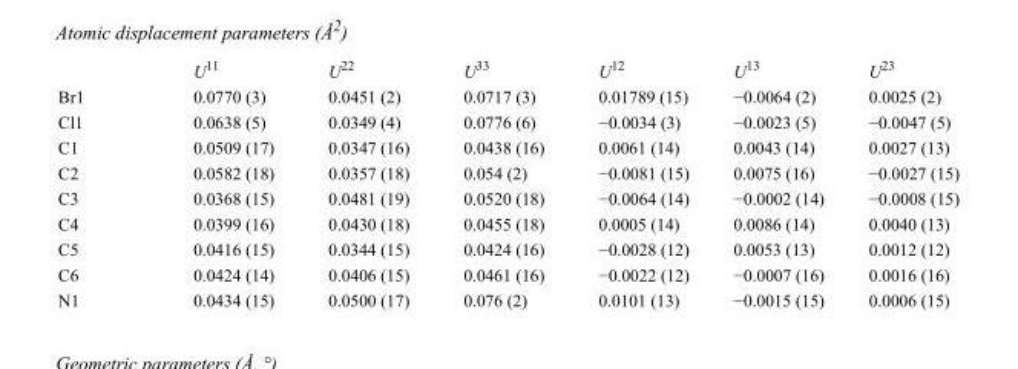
<table><thead><tr><td></td><td>U<sup>11</sup></td><td>U<sup>22</sup></td><td>U<sup>33</sup></td><td>U<sup>12</sup></td><td>U<sup>13</sup></td><td>U<sup>23</sup></td></tr></thead><tbody><tr><td>Br1</td><td>0.0770 (3)</td><td>0.0451 (2)</td><td>0.0717 (3)</td><td>0.01789 (15)</td><td>−0.0064 (2)</td><td>0.0025 (2)</td></tr><tr><td>Cl1</td><td>0.0638 (5)</td><td>0.0349 (4)</td><td>0.0776 (6)</td><td>−0.0034 (3)</td><td>−0.0023 (5)</td><td>−0.0047 (5)</td></tr><tr><td>C1</td><td>0.0509 (17)</td><td>0.0347 (16)</td><td>0.0438 (16)</td><td>0.0061 (14)</td><td>0.0043 (14)</td><td>0.0027 (13)</td></tr><tr><td>C2</td><td>0.0582 (18)</td><td>0.0357 (18)</td><td>0.054 (2)</td><td>−0.0081 (15)</td><td>0.0075 (16)</td><td>−0.0027 (15)</td></tr><tr><td>C3</td><td>0.0368 (15)</td><td>0.0481 (19)</td><td>0.0520 (18)</td><td>−0.0064 (14)</td><td>−0.0002 (14)</td><td>−0.0008 (15)</td></tr><tr><td>C4</td><td>0.0399 (16)</td><td>0.0430 (18)</td><td>0.0455 (18)</td><td>0.0005 (14)</td><td>0.0086 (14)</td><td>0.0040 (13)</td></tr><tr><td>C5</td><td>0.0416 (15)</td><td>0.0344 (15)</td><td>0.0424 (16)</td><td>−0.0028 (12)</td><td>0.0053 (13)</td><td>0.0012 (12)</td></tr><tr><td>C6</td><td>0.0424 (14)</td><td>0.0406 (15)</td><td>0.0461 (16)</td><td>−0.0022 (12)</td><td>−0.0007 (16)</td><td>0.0016 (16)</td></tr><tr><td>N1</td><td>0.0434 (15)</td><td>0.0500 (17)</td><td>0.076 (2)</td><td>0.0101 (13)</td><td>−0.0015 (15)</td><td>0.0006 (15)</td></tr></tbody></table>